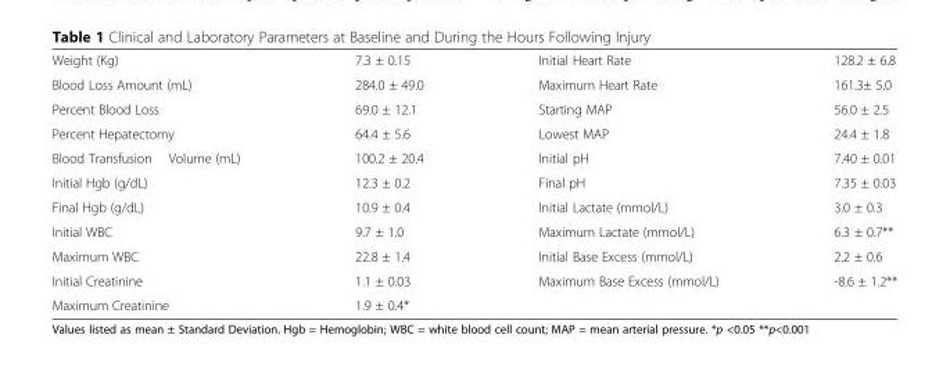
<table><tbody><tr><td>Weight (Kg)</td><td>7.3 ± 0.15</td><td>Initial Heart Rate</td><td>128.2 ± 6.8</td></tr><tr><td>Blood Loss Amount (mL)</td><td>284.0 ± 49.0</td><td>Maximum Heart Rate</td><td>161.3± 5.0</td></tr><tr><td>Percent Blood Loss</td><td>69.0 ± 12.1</td><td>Starting MAP</td><td>56.0 ± 2.5</td></tr><tr><td>Percent Hepatectomy</td><td>64.4 ± 5.6</td><td>Lowest MAP</td><td>24.4 ± 1.8</td></tr><tr><td>Blood Transfusion Volume (mL)</td><td>100.2 ± 20.4</td><td>Initial pH</td><td>7.40 ± 0.01</td></tr><tr><td>Initial Hgb (g/dL)</td><td>12.3 ± 0.2</td><td>Final pH</td><td>7.35 ± 0.03</td></tr><tr><td>Final Hgb (g/dL)</td><td>10.9 ± 0.4</td><td>Initial Lactate (mmol/L)</td><td>3.0 ± 0.3</td></tr><tr><td>Initial WBC</td><td>9.7 ± 1.0</td><td>Maximum Lactate (mmol/L)</td><td>6.3 ± 0.7**</td></tr><tr><td>Maximum WBC</td><td>22.8 ± 1.4</td><td>Initial Base Excess (mmol/L)</td><td>2.2 ± 0.6</td></tr><tr><td>Initial Creatinine</td><td>1.1 ± 0.03</td><td rowspan="2">Maximum Base Excess (mmol/L)</td><td rowspan="2">-8.6 ± 1.2**</td></tr><tr><td>Maximum Creatinine</td><td>1.9 ± 0.4*</td></tr></tbody></table>